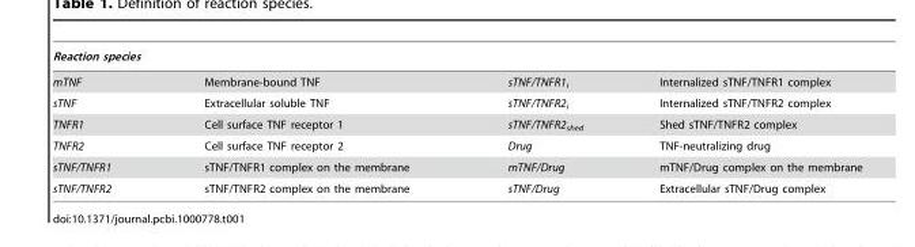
<table><thead><tr><td colspan="4">Reaction species</td></tr><tr><td>mTNF</td><td>Membrane-bound TNF</td><td>sTNF/TNFR1<sub>i</sub></td><td>Internalized sTNF/TNFR1 complex</td></tr></thead><tbody><tr><td>sTNF</td><td>Extracellular soluble TNF</td><td>sTNF/TNFR2<sub>i</sub></td><td>Internalized sTNF/TNFR2 complex</td></tr><tr><td>TNFR1</td><td>Cell surface TNF receptor 1</td><td>sTNF/TNFR2<sub>shed</sub></td><td>Shed sTNF/TNFR2 complex</td></tr><tr><td>TNFR2</td><td>Cell surface TNF receptor 2</td><td>Drug</td><td>TNF-neutralizing drug</td></tr><tr><td>sTNF/TNFR1</td><td>sTNF/TNFR1 complex on the membrane</td><td>mTNF/Drug</td><td>mTNF/Drug complex on the membrane</td></tr><tr><td>sTNF/TNFR2</td><td>sTNF/TNFR2 complex on the membrane</td><td>sTNF/Drug</td><td>Extracellular sTNF/Drug complex</td></tr></tbody></table>